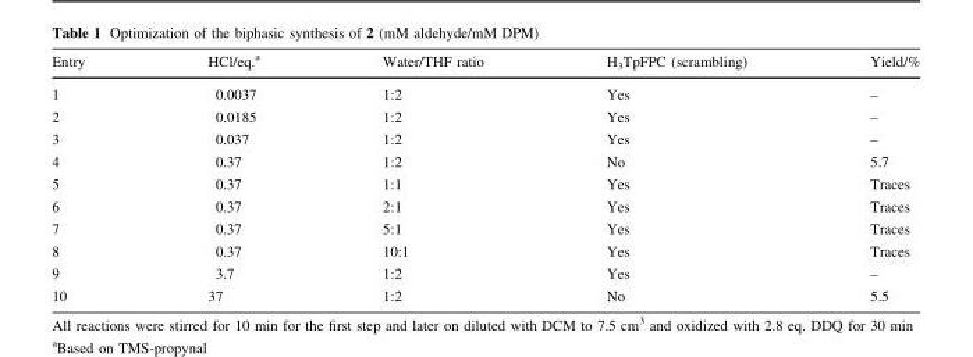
<table><thead><tr><td>Entry</td><td>HCl/eq.<sup>a</sup></td><td>Water/THF ratio</td><td>H<sub>3</sub>TpFPC (scrambling)</td><td>Yield/%</td></tr></thead><tbody><tr><td>1</td><td>0.0037</td><td>1:2</td><td>Yes</td><td>–</td></tr><tr><td>2</td><td>0.0185</td><td>1:2</td><td>Yes</td><td>–</td></tr><tr><td>3</td><td>0.037</td><td>1:2</td><td>Yes</td><td>–</td></tr><tr><td>4</td><td>0.37</td><td>1:2</td><td>No</td><td>5.7</td></tr><tr><td>5</td><td>0.37</td><td>1:1</td><td>Yes</td><td>Traces</td></tr><tr><td>6</td><td>0.37</td><td>2:1</td><td>Yes</td><td>Traces</td></tr><tr><td>7</td><td>0.37</td><td>5:1</td><td>Yes</td><td>Traces</td></tr><tr><td>8</td><td>0.37</td><td>10:1</td><td>Yes</td><td>Traces</td></tr><tr><td>9</td><td>3.7</td><td>1:2</td><td>Yes</td><td>–</td></tr><tr><td>10</td><td>37</td><td>1:2</td><td>No</td><td>5.5</td></tr></tbody></table>